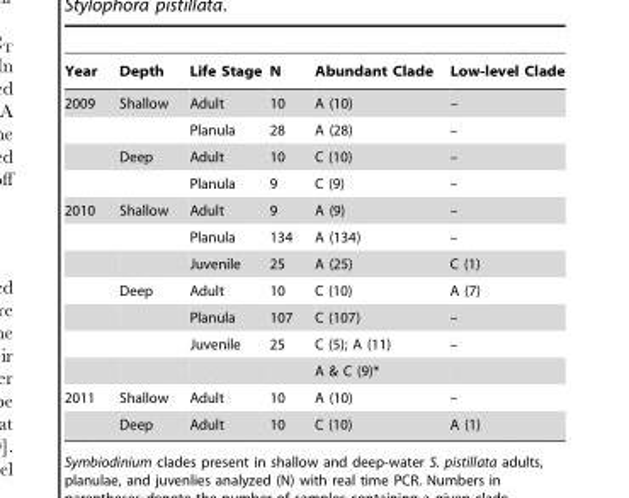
<table><thead><tr><td>Year</td><td>Depth</td><td>Life Stage</td><td>N</td><td>Abundant Clade</td><td>Low-level Clade</td></tr></thead><tbody><tr><td rowspan="4">2009</td><td>Shallow</td><td>Adult</td><td>10</td><td>A (10)</td><td>–</td></tr><tr><td></td><td>Planula</td><td>28</td><td>A (28)</td><td>–</td></tr><tr><td>Deep</td><td>Adult</td><td>10</td><td>C (10)</td><td>–</td></tr><tr><td></td><td>Planula</td><td>9</td><td>C (9)</td><td>–</td></tr><tr><td rowspan="7">2010</td><td>Shallow</td><td>Adult</td><td>9</td><td>A (9)</td><td>–</td></tr><tr><td></td><td>Planula</td><td>134</td><td>A (134)</td><td>–</td></tr><tr><td></td><td>Juvenile</td><td>25</td><td>A (25)</td><td>C (1)</td></tr><tr><td>Deep</td><td>Adult</td><td>10</td><td>C (10)</td><td>A (7)</td></tr><tr><td></td><td>Planula</td><td>107</td><td>C (107)</td><td>–</td></tr><tr><td></td><td>Juvenile</td><td>25</td><td>C (5); A (11)</td><td>–</td></tr><tr><td></td><td></td><td></td><td>A &amp; C (9)*</td><td></td></tr><tr><td rowspan="2">2011</td><td>Shallow</td><td>Adult</td><td>10</td><td>A (10)</td><td>–</td></tr><tr><td>Deep</td><td>Adult</td><td>10</td><td>C (10)</td><td>A (1)</td></tr></tbody></table>